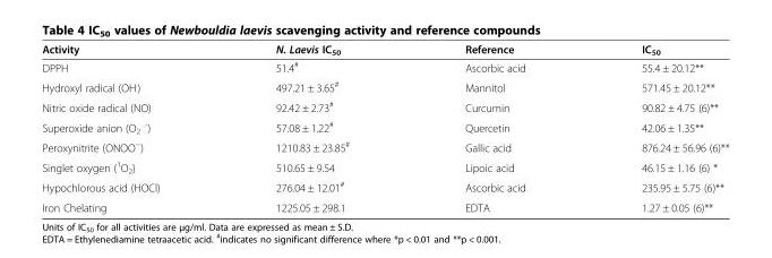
<table><thead><tr><td>Activity</td><td>N. Laevis IC<sub>50</sub></td><td>Reference</td><td>IC<sub>50</sub></td></tr></thead><tbody><tr><td>DPPH</td><td>51.4<sup>#</sup></td><td>Ascorbic acid</td><td>55.4 ± 20.12**</td></tr><tr><td>Hydroxyl radical (OH<sup>.</sup>)</td><td>497.21 ± 3.65<sup>#</sup></td><td>Mannitol</td><td>571.45 ± 20.12**</td></tr><tr><td>Nitric oxide radical (NO)</td><td>92.42 ± 2.73<sup>#</sup></td><td>Curcumin</td><td>90.82 ± 4.75 (6)**</td></tr><tr><td>Superoxide anion (O<sub>2</sub> <sup>.-</sup>)</td><td>57.08 ± 1.22<sup>#</sup></td><td>Quercetin</td><td>42.06 ± 1.35**</td></tr><tr><td>Peroxynitrite (ONOO<sup>−</sup>)</td><td>1210.83 ± 23.85<sup>#</sup></td><td>Gallic acid</td><td>876.24 ± 56.96 (6)**</td></tr><tr><td>Singlet oxygen (<sup>1</sup>O<sub>2</sub>)</td><td>510.65 ± 9.54</td><td>Lipoic acid</td><td>46.15 ± 1.16 (6) *</td></tr><tr><td>Hypochlorous acid (HOCl)</td><td>276.04 ± 12.01<sup>#</sup></td><td>Ascorbic acid</td><td>235.95 ± 5.75 (6)**</td></tr><tr><td>Iron Chelating</td><td>1225.05 ± 298.1</td><td>EDTA</td><td>1.27 ± 0.05 (6)**</td></tr></tbody></table>